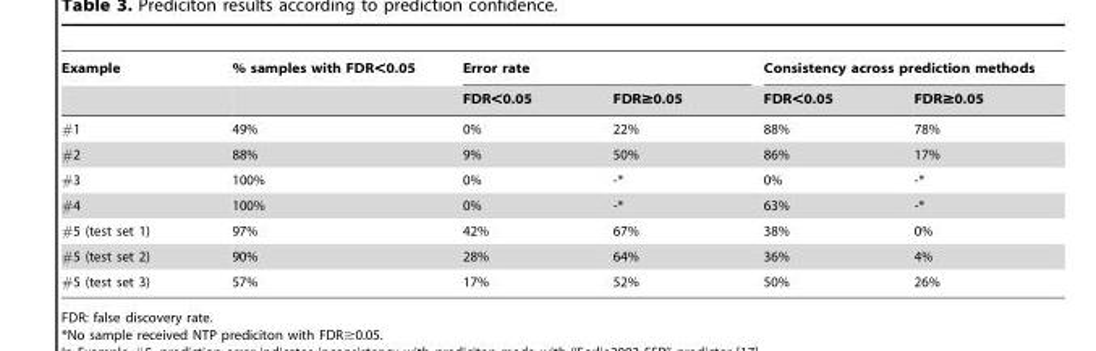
<table><thead><tr><td rowspan="2">Example</td><td rowspan="2">% samples with FDR&lt;0.05</td><td colspan="2">Error rate</td><td colspan="2">Consistency across prediction methods</td></tr><tr><td>FDR&lt;0.05</td><td>FDR≥0.05</td><td>FDR&lt;0.05</td><td>FDR≥0.05</td></tr></thead><tbody><tr><td>#1</td><td>49%</td><td>0%</td><td>22%</td><td>88%</td><td>78%</td></tr><tr><td>#2</td><td>88%</td><td>9%</td><td>50%</td><td>86%</td><td>17%</td></tr><tr><td>#3</td><td>100%</td><td>0%</td><td>-*</td><td>0%</td><td>-*</td></tr><tr><td>#4</td><td>100%</td><td>0%</td><td>-*</td><td>63%</td><td>-*</td></tr><tr><td>#5 (test set 1)</td><td>97%</td><td>42%</td><td>67%</td><td>38%</td><td>0%</td></tr><tr><td>#5 (test set 2)</td><td>90%</td><td>28%</td><td>64%</td><td>36%</td><td>4%</td></tr><tr><td>#5 (test set 3)</td><td>57%</td><td>17%</td><td>52%</td><td>50%</td><td>26%</td></tr></tbody></table>